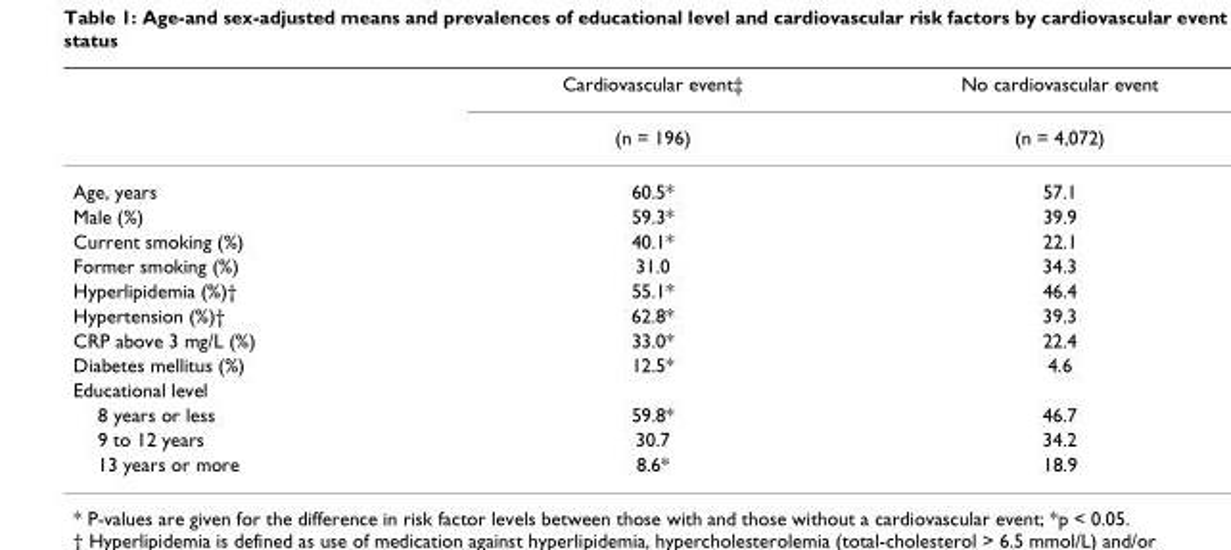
<table><thead><tr><td rowspan="2"></td><td rowspan="2">Cardiovascular event‡ (n = 196)</td><td rowspan="2">No cardiovascular event (n = 4,072)</td></tr><tr></tr></thead><tbody><tr><td>Age, years</td><td>60.5*</td><td>57.1</td></tr><tr><td>Male (%)</td><td>59.3*</td><td>39.9</td></tr><tr><td>Current smoking (%)</td><td>40.1*</td><td>22.1</td></tr><tr><td>Former smoking (%)</td><td>31.0</td><td>34.3</td></tr><tr><td>Hyperlipidemia (%)†</td><td>55.1*</td><td>46.4</td></tr><tr><td>Hypertension (%)†</td><td>62.8*</td><td>39.3</td></tr><tr><td>CRP above 3 mg/L (%)</td><td>33.0*</td><td>22.4</td></tr><tr><td>Diabetes mellitus (%)</td><td>12.5*</td><td>4.6</td></tr><tr><td colspan="3">Educational level</td></tr><tr><td>8 years or less</td><td>59.8*</td><td>46.7</td></tr><tr><td>9 to 12 years</td><td>30.7</td><td>34.2</td></tr><tr><td>13 years or more</td><td>8.6*</td><td>18.9</td></tr></tbody></table>